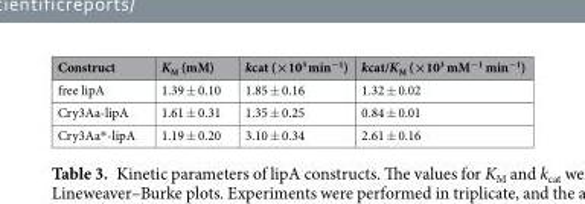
<table><thead><tr><td>Construct</td><td>K<sub>M</sub> (mM)</td><td>kcat (×10<sup>3</sup> min<sup>−1</sup>)</td><td>kcat/K<sub>M</sub> (×10<sup>3</sup> mM<sup>−1</sup> min<sup>−1</sup>)</td></tr></thead><tbody><tr><td>free lipA</td><td>1.39 ± 0.10</td><td>1.85 ± 0.16</td><td>1.32 ± 0.02</td></tr><tr><td>Cry3Aa-lipA</td><td>1.61 ± 0.31</td><td>1.35 ± 0.25</td><td>0.84 ± 0.01</td></tr><tr><td>Cry3Aa*-lipA</td><td>1.19 ± 0.20</td><td>3.10 ± 0.34</td><td>2.61 ± 0.16</td></tr></tbody></table>